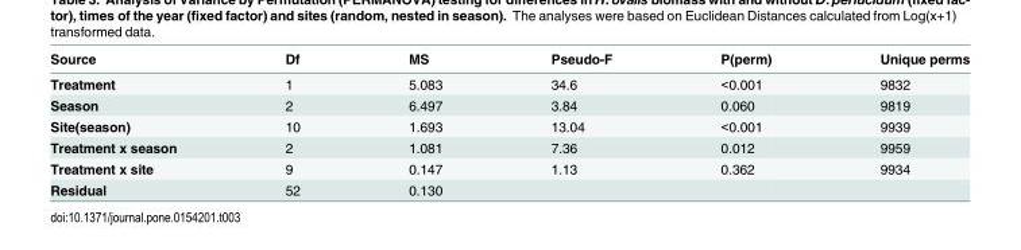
<table><thead><tr><td>Source</td><td>Df</td><td>MS</td><td>Pseudo-F</td><td>P(perm)</td><td>Unique perms</td></tr></thead><tbody><tr><td>Treatment</td><td>1</td><td>5.083</td><td>34.6</td><td>&lt;0.001</td><td>9832</td></tr><tr><td>Season</td><td>2</td><td>6.497</td><td>3.84</td><td>0.060</td><td>9819</td></tr><tr><td>Site(season)</td><td>10</td><td>1.693</td><td>13.04</td><td>&lt;0.001</td><td>9939</td></tr><tr><td>Treatment x season</td><td>2</td><td>1.081</td><td>7.36</td><td>0.012</td><td>9959</td></tr><tr><td>Treatment x site</td><td>9</td><td>0.147</td><td>1.13</td><td>0.362</td><td>9934</td></tr><tr><td>Residual</td><td>52</td><td>0.130</td><td></td><td></td><td></td></tr></tbody></table>